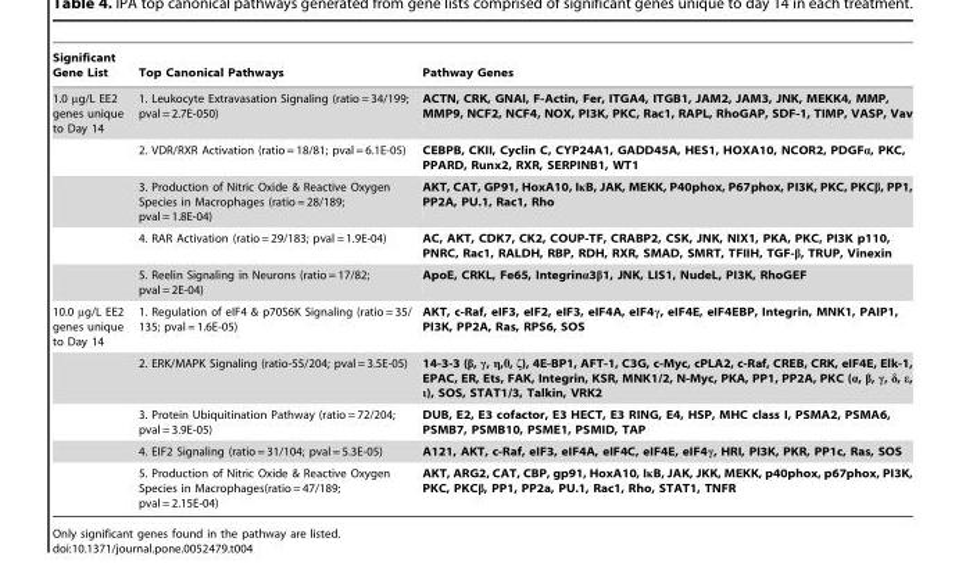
<table><thead><tr><td>Significant Gene List</td><td>Top Canonical Pathways</td><td>Pathway Genes</td></tr></thead><tbody><tr><td rowspan="5">1.0 µg/L EE2 genes unique to Day 14</td><td>1. Leukocyte Extravasation Signaling (ratio = 34/199; pval = 2.7E-050)</td><td>ACTN, CRK, GNAI, F-Actin, Fer, ITGA4, ITGB1, JAM2, JAM3, JNK, MEKK4, MMP, MMP9, NCF2, NCF4, NOX, PI3K, PKC, Rac1, RAPL, RhoGAP, SDF-1, TIMP, VASP, Vav</td></tr><tr><td>2. VDR/RXR Activation (ratio = 18/81; pval = 6.1E-05)</td><td>CEBPB, CKII, Cyclin C, CYP24A1, GADD45A, HES1, HOXA10, NCOR2, PDGFα, PKC, PPARD, Runx2, RXR, SERPINB1, WT1</td></tr><tr><td>3. Production of Nitric Oxide &amp; Reactive Oxygen Species in Macrophages (ratio = 28/189; pval = 1.8E-04)</td><td>AKT, CAT, GP91, HoxA10, IκB, JAK, MEKK, P40phox, P67phox, PI3K, PKC, PKCβ, PP1, PP2A, PU.1, Rac1, Rho</td></tr><tr><td>4. RAR Activation (ratio = 29/183; pval = 1.9E-04)</td><td>AC, AKT, CDK7, CK2, COUP-TF, CRABP2, CSK, JNK, NIX1, PKA, PKC, PI3K p110, PNRC, Rac1, RALDH, RBP, RDH, RXR, SMAD, SMRT, TFIIH, TGF-β, TRUP, Vinexin</td></tr><tr><td>5. Reelin Signaling in Neurons (ratio = 17/82; pval = 2E-04)</td><td>ApoE, CRKL, Fe65, Integrinα3β1, JNK, LIS1, NudeL, PI3K, RhoGEF</td></tr><tr><td rowspan="5">10.0 µg/L EE2 genes unique to Day 14</td><td>1. Regulation of eIF4 &amp; p70S6K Signaling (ratio = 35/ 135; pval = 1.6E-05)</td><td>AKT, c-Raf, eIF3, eIF2, eIF3, eIF4A, eIF4γ, eIF4E, eIF4EBP, Integrin, MNK1, PAIP1, PI3K, PP2A, Ras, RPS6, SOS</td></tr><tr><td>2. ERK/MAPK Signaling (ratio-55/204; pval = 3.5E-05)</td><td>14-3-3 (β, γ, η,θ, ζ), 4E-BP1, AFT-1, C3G, c-Myc, cPLA2, c-Raf, CREB, CRK, eIF4E, Elk-1, EPAC, ER, Ets, FAK, Integrin, KSR, MNK1/2, N-Myc, PKA, PP1, PP2A, PKC (α, β, γ, δ, ε, ι), SOS, STAT1/3, Talkin, VRK2</td></tr><tr><td>3. Protein Ubiquitination Pathway (ratio = 72/204; pval = 3.9E-05)</td><td>DUB, E2, E3 cofactor, E3 HECT, E3 RING, E4, HSP, MHC class I, PSMA2, PSMA6, PSMB7, PSMB10, PSME1, PSMID, TAP</td></tr><tr><td>4. EIF2 Signaling (ratio = 31/104; pval = 5.3E-05)</td><td>A121, AKT, c-Raf, eIF3, eIF4A, eIF4C, eIF4E, eIF4γ, HRI, PI3K, PKR, PP1c, Ras, SOS</td></tr><tr><td>5. Production of Nitric Oxide &amp; Reactive Oxygen Species in Macrophages(ratio = 47/189; pval = 2.15E-04)</td><td>AKT, ARG2, CAT, CBP, gp91, HoxA10, IκB, JAK, JKK, MEKK, p40phox, p67phox, PI3K, PKC, PKCβ, PP1, PP2a, PU.1, Rac1, Rho, STAT1, TNFR</td></tr></tbody></table>